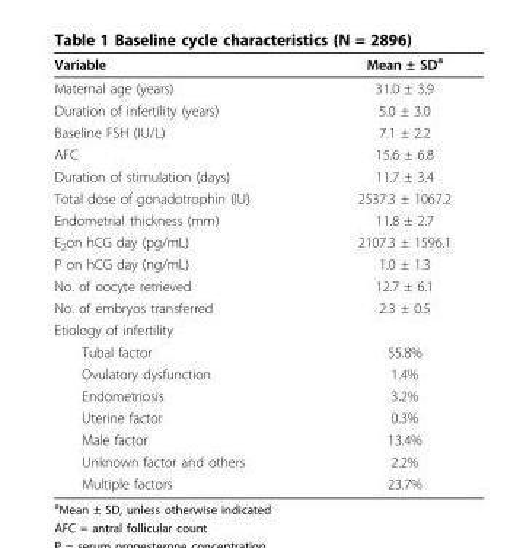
<table><thead><tr><td>Variable</td><td>Mean ± SD<sup>a</sup></td></tr></thead><tbody><tr><td>Maternal age (years)</td><td>31.0 ± 3.9</td></tr><tr><td>Duration of infertility (years)</td><td>5.0 ± 3.0</td></tr><tr><td>Baseline FSH (IU/L)</td><td>7.1 ± 2.2</td></tr><tr><td>AFC</td><td>15.6 ± 6.8</td></tr><tr><td>Duration of stimulation (days)</td><td>11.7 ± 3.4</td></tr><tr><td>Total dose of gonadotrophin (IU)</td><td>2537.3 ± 1067.2</td></tr><tr><td>Endometrial thickness (mm)</td><td>11.8 ± 2.7</td></tr><tr><td>E<sub>2</sub>on hCG day (pg/mL)</td><td>2107.3 ± 1596.1</td></tr><tr><td>P on hCG day (ng/mL)</td><td>1.0 ± 1.3</td></tr><tr><td>No. of oocyte retrieved</td><td>12.7 ± 6.1</td></tr><tr><td>No. of embryos transferred</td><td>2.3 ± 0.5</td></tr><tr><td colspan="2">Etiology of infertility</td></tr><tr><td>Tubal factor</td><td>55.8%</td></tr><tr><td>Ovulatory dysfunction</td><td>1.4%</td></tr><tr><td>Endometriosis</td><td>3.2%</td></tr><tr><td>Uterine factor</td><td>0.3%</td></tr><tr><td>Male factor</td><td>13.4%</td></tr><tr><td>Unknown factor and others</td><td>2.2%</td></tr><tr><td>Multiple factors</td><td>23.7%</td></tr></tbody></table>